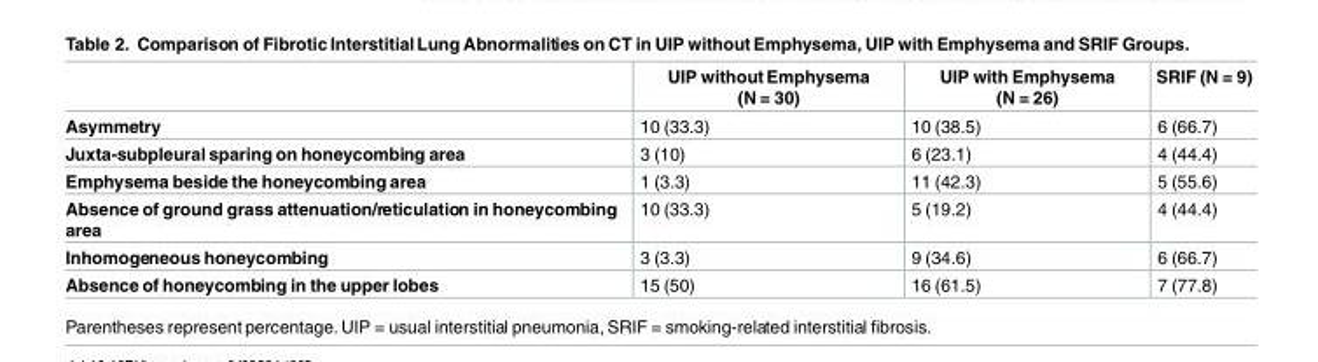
<table><thead><tr><td></td><td>UIP without Emphysema (N = 30)</td><td>UIP with Emphysema (N = 26)</td><td>SRIF (N = 9)</td></tr></thead><tbody><tr><td>Asymmetry</td><td>10 (33.3)</td><td>10 (38.5)</td><td>6 (66.7)</td></tr><tr><td>Juxta-subpleural sparing on honeycombing area</td><td>3 (10)</td><td>6 (23.1)</td><td>4 (44.4)</td></tr><tr><td>Emphysema beside the honeycombing area</td><td>1 (3.3)</td><td>11 (42.3)</td><td>5 (55.6)</td></tr><tr><td>Absence of ground grass attenuation/reticulation in honeycombing area</td><td>10 (33.3)</td><td>5 (19.2)</td><td>4 (44.4)</td></tr><tr><td>Inhomogeneous honeycombing</td><td>3 (3.3)</td><td>9 (34.6)</td><td>6 (66.7)</td></tr><tr><td>Absence of honeycombing in the upper lobes</td><td>15 (50)</td><td>16 (61.5)</td><td>7 (77.8)</td></tr></tbody></table>